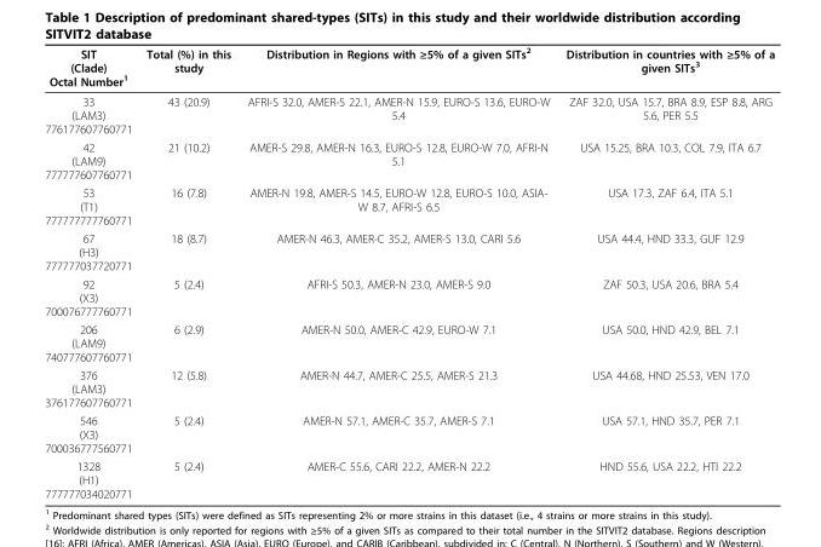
<table><thead><tr><td>SIT (Clade) Octal Number<sup>1</sup></td><td>Total (%) in this study</td><td>Distribution in Regions with ≥5% of a given SITs<sup>2</sup></td><td>Distribution in countries with ≥5% of a given SITs<sup>3</sup></td></tr></thead><tbody><tr><td>33 (LAM3) 776177607760771</td><td>43 (20.9)</td><td>AFRI-S 32.0, AMER-S 22.1, AMER-N 15.9, EURO-S 13.6, EURO-W 5.4</td><td>ZAF 32.0, USA 15.7, BRA 8.9, ESP 8.8, ARG 5.6, PER 5.5</td></tr><tr><td>42 (LAM9) 777777607760771</td><td>21 (10.2)</td><td>AMER-S 29.8, AMER-N 16.3, EURO-S 12.8, EURO-W 7.0, AFRI-N 5.1</td><td>USA 15.25, BRA 10.3, COL 7.9, ITA 6.7</td></tr><tr><td>53 (T1) 777777777760771</td><td>16 (7.8)</td><td>AMER-N 19.8, AMER-S 14.5, EURO-W 12.8, EURO-S 10.0, ASIA- W 8.7, AFRI-S 6.5</td><td>USA 17.3, ZAF 6.4, ITA 5.1</td></tr><tr><td>67 (H3) 777777037720771</td><td>18 (8.7)</td><td>AMER-N 46.3, AMER-C 35.2, AMER-S 13.0, CARI 5.6</td><td>USA 44.4, HND 33.3, GUF 12.9</td></tr><tr><td>92 (X3) 700076777760771</td><td>5 (2.4)</td><td>AFRI-S 50.3, AMER-N 23.0, AMER-S 9.0</td><td>ZAF 50.3, USA 20.6, BRA 5.4</td></tr><tr><td>206 (LAM9) 740777607760771</td><td>6 (2.9)</td><td>AMER-N 50.0, AMER-C 42.9, EURO-W 7.1</td><td>USA 50.0, HND 42.9, BEL 7.1</td></tr><tr><td>376 (LAM3) 376177607760771</td><td>12 (5.8)</td><td>AMER-N 44.7, AMER-C 25.5, AMER-S 21.3</td><td>USA 44.68, HND 25.53, VEN 17.0</td></tr><tr><td>546 (X3) 700036777560771</td><td>5 (2.4)</td><td>AMER-N 57.1, AMER-C 35.7, AMER-S 7.1</td><td>USA 57.1, HND 35.7, PER 7.1</td></tr><tr><td>1328 (H1) 777777034020771</td><td>5 (2.4)</td><td>AMER-C 55.6, CARI 22.2, AMER-N 22.2</td><td>HND 55.6, USA 22.2, HTI 22.2</td></tr></tbody></table>